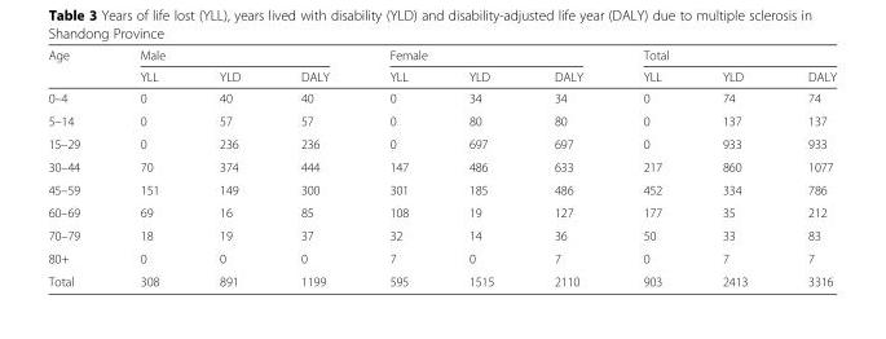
<table><thead><tr><td rowspan="2">Age</td><td colspan="3">Male</td><td colspan="3">Female</td><td colspan="3">Total</td></tr><tr><td>YLL</td><td>YLD</td><td>DALY</td><td>YLL</td><td>YLD</td><td>DALY</td><td>YLL</td><td>YLD</td><td>DALY</td></tr></thead><tbody><tr><td>0–4</td><td>0</td><td>40</td><td>40</td><td>0</td><td>34</td><td>34</td><td>0</td><td>74</td><td>74</td></tr><tr><td>5–14</td><td>0</td><td>57</td><td>57</td><td>0</td><td>80</td><td>80</td><td>0</td><td>137</td><td>137</td></tr><tr><td>15–29</td><td>0</td><td>236</td><td>236</td><td>0</td><td>697</td><td>697</td><td>0</td><td>933</td><td>933</td></tr><tr><td>30–44</td><td>70</td><td>374</td><td>444</td><td>147</td><td>486</td><td>633</td><td>217</td><td>860</td><td>1077</td></tr><tr><td>45–59</td><td>151</td><td>149</td><td>300</td><td>301</td><td>185</td><td>486</td><td>452</td><td>334</td><td>786</td></tr><tr><td>60–69</td><td>69</td><td>16</td><td>85</td><td>108</td><td>19</td><td>127</td><td>177</td><td>35</td><td>212</td></tr><tr><td>70–79</td><td>18</td><td>19</td><td>37</td><td>32</td><td>14</td><td>36</td><td>50</td><td>33</td><td>83</td></tr><tr><td>80+</td><td>0</td><td>0</td><td>0</td><td>7</td><td>0</td><td>7</td><td>0</td><td>7</td><td>7</td></tr><tr><td>Total</td><td>308</td><td>891</td><td>1199</td><td>595</td><td>1515</td><td>2110</td><td>903</td><td>2413</td><td>3316</td></tr></tbody></table>